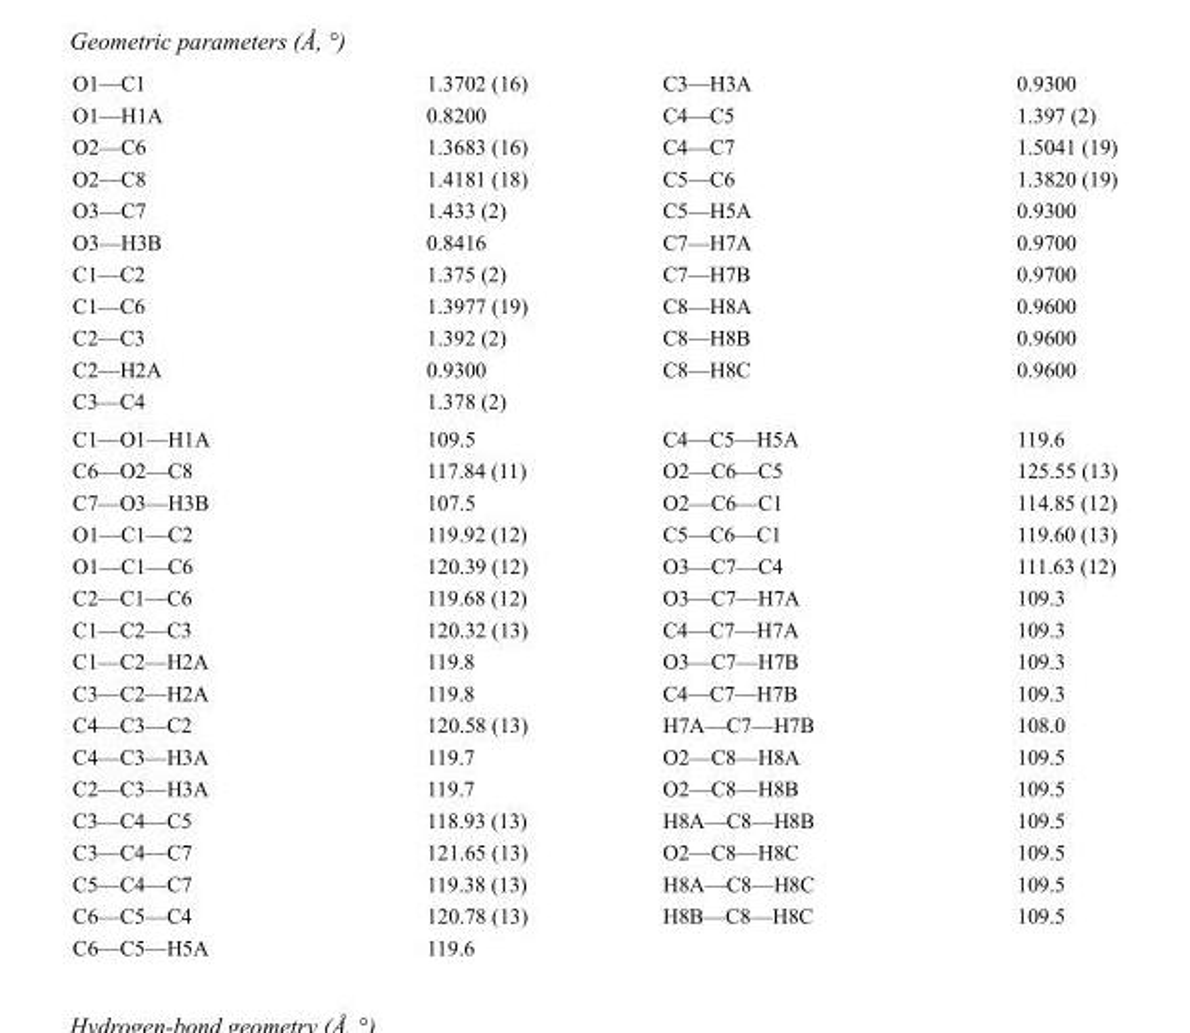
<table><tbody><tr><td>O1—C1</td><td>1.3702 (16)</td><td>C3—H3A</td><td>0.9300</td></tr><tr><td>O1—H1A</td><td>0.8200</td><td>C4—C5</td><td>1.397 (2)</td></tr><tr><td>O2—C6</td><td>1.3683 (16)</td><td>C4—C7</td><td>1.5041 (19)</td></tr><tr><td>O2—C8</td><td>1.4181 (18)</td><td>C5—C6</td><td>1.3820 (19)</td></tr><tr><td>O3—C7</td><td>1.433 (2)</td><td>C5—H5A</td><td>0.9300</td></tr><tr><td>O3—H3B</td><td>0.8416</td><td>C7—H7A</td><td>0.9700</td></tr><tr><td>C1—C2</td><td>1.375 (2)</td><td>C7—H7B</td><td>0.9700</td></tr><tr><td>C1—C6</td><td>1.3977 (19)</td><td>C8—H8A</td><td>0.9600</td></tr><tr><td>C2—C3</td><td>1.392 (2)</td><td>C8—H8B</td><td>0.9600</td></tr><tr><td>C2—H2A</td><td>0.9300</td><td>C8—H8C</td><td>0.9600</td></tr><tr><td>C3—C4</td><td>1.378 (2)</td><td></td><td></td></tr><tr><td>C1—O1—H1A</td><td>109.5</td><td>C4—C5—H5A</td><td>119.6</td></tr><tr><td>C6—O2—C8</td><td>117.84 (11)</td><td>O2—C6—C5</td><td>125.55 (13)</td></tr><tr><td>C7—O3—H3B</td><td>107.5</td><td>O2—C6—C1</td><td>114.85 (12)</td></tr><tr><td>O1—C1—C2</td><td>119.92 (12)</td><td>C5—C6—C1</td><td>119.60 (13)</td></tr><tr><td>O1—C1—C6</td><td>120.39 (12)</td><td>O3—C7—C4</td><td>111.63 (12)</td></tr><tr><td>C2—C1—C6</td><td>119.68 (12)</td><td>O3—C7—H7A</td><td>109.3</td></tr><tr><td>C1—C2—C3</td><td>120.32 (13)</td><td>C4—C7—H7A</td><td>109.3</td></tr><tr><td>C1—C2—H2A</td><td>119.8</td><td>O3—C7—H7B</td><td>109.3</td></tr><tr><td>C3—C2—H2A</td><td>119.8</td><td>C4—C7—H7B</td><td>109.3</td></tr><tr><td>C4—C3—C2</td><td>120.58 (13)</td><td>H7A—C7—H7B</td><td>108.0</td></tr><tr><td>C4—C3—H3A</td><td>119.7</td><td>O2—C8—H8A</td><td>109.5</td></tr><tr><td>C2—C3—H3A</td><td>119.7</td><td>O2—C8—H8B</td><td>109.5</td></tr><tr><td>C3—C4—C5</td><td>118.93 (13)</td><td>H8A—C8—H8B</td><td>109.5</td></tr><tr><td>C3—C4—C7</td><td>121.65 (13)</td><td>O2—C8—H8C</td><td>109.5</td></tr><tr><td>C5—C4—C7</td><td>119.38 (13)</td><td>H8A—C8—H8C</td><td>109.5</td></tr><tr><td>C6—C5—C4</td><td>120.78 (13)</td><td>H8B—C8—H8C</td><td>109.5</td></tr><tr><td>C6—C5—H5A</td><td>119.6</td><td></td><td></td></tr></tbody></table>